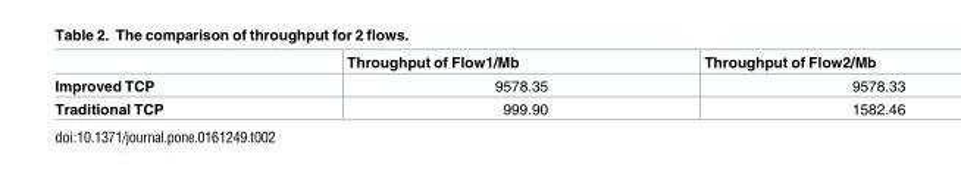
<table><thead><tr><td></td><td>Throughput of Flow1/Mb</td><td>Throughput of Flow2/Mb</td></tr></thead><tbody><tr><td>Improved TCP</td><td>9578.35</td><td>9578.33</td></tr><tr><td>Traditional TCP</td><td>999.90</td><td>1582.46</td></tr></tbody></table>